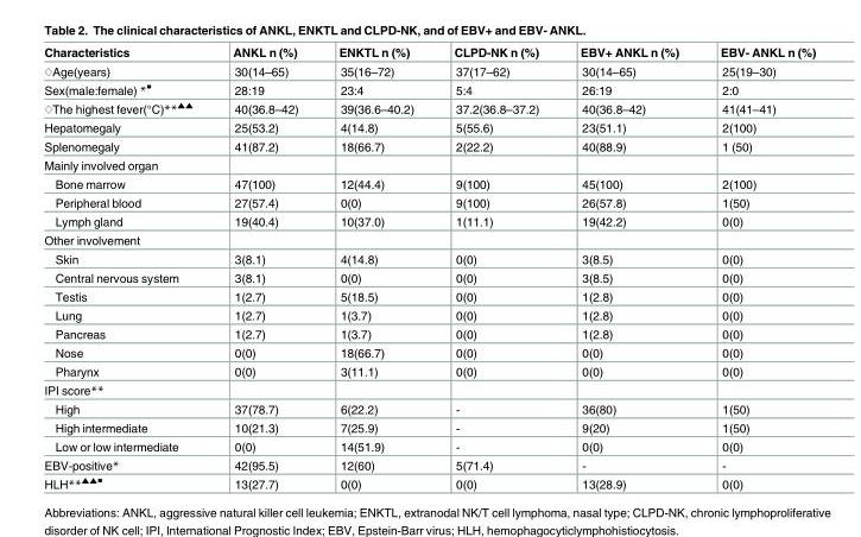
<table><thead><tr><td>Characteristics</td><td>ANKL n (%)</td><td>ENKTL n (%)</td><td>CLPD-NK n (%)</td><td>EBV+ ANKL n (%)</td><td>EBV- ANKL n (%)</td></tr></thead><tbody><tr><td>♢Age(years)</td><td>30(14–65)</td><td>35(16–72)</td><td>37(17–62)</td><td>30(14–65)</td><td>25(19–30)</td></tr><tr><td>Sex(male:female) *<sup>■</sup></td><td>28:19</td><td>23:4</td><td>5:4</td><td>26:19</td><td>2:0</td></tr><tr><td>♢The highest fever(°C)**<sup>▲▲</sup></td><td>40(36.8–42)</td><td>39(36.6–40.2)</td><td>37.2(36.8–37.2)</td><td>40(36.8–42)</td><td>41(41–41)</td></tr><tr><td>Hepatomegaly</td><td>25(53.2)</td><td>4(14.8)</td><td>5(55.6)</td><td>23(51.1)</td><td>2(100)</td></tr><tr><td>Splenomegaly</td><td>41(87.2)</td><td>18(66.7)</td><td>2(22.2)</td><td>40(88.9)</td><td>1 (50)</td></tr><tr><td colspan="6">Mainly involved organ</td></tr><tr><td>Bone marrow</td><td>47(100)</td><td>12(44.4)</td><td>9(100)</td><td>45(100)</td><td>2(100)</td></tr><tr><td>Peripheral blood</td><td>27(57.4)</td><td>0(0)</td><td>9(100)</td><td>26(57.8)</td><td>1(50)</td></tr><tr><td>Lymph gland</td><td>19(40.4)</td><td>10(37.0)</td><td>1(11.1)</td><td>19(42.2)</td><td>0(0)</td></tr><tr><td colspan="6">Other involvement</td></tr><tr><td>Skin</td><td>3(8.1)</td><td>4(14.8)</td><td>0(0)</td><td>3(8.5)</td><td>0(0)</td></tr><tr><td>Central nervous system</td><td>3(8.1)</td><td>0(0)</td><td>0(0)</td><td>3(8.5)</td><td>0(0)</td></tr><tr><td>Testis</td><td>1(2.7)</td><td>5(18.5)</td><td>0(0)</td><td>1(2.8)</td><td>0(0)</td></tr><tr><td>Lung</td><td>1(2.7)</td><td>1(3.7)</td><td>0(0)</td><td>1(2.8)</td><td>0(0)</td></tr><tr><td>Pancreas</td><td>1(2.7)</td><td>1(3.7)</td><td>0(0)</td><td>1(2.8)</td><td>0(0)</td></tr><tr><td>Nose</td><td>0(0)</td><td>18(66.7)</td><td>0(0)</td><td>0(0)</td><td>0(0)</td></tr><tr><td>Pharynx</td><td>0(0)</td><td>3(11.1)</td><td>0(0)</td><td>0(0)</td><td>0(0)</td></tr><tr><td colspan="6">IPI score**</td></tr><tr><td>High</td><td>37(78.7)</td><td>6(22.2)</td><td>-</td><td>36(80)</td><td>1(50)</td></tr><tr><td>High intermediate</td><td>10(21.3)</td><td>7(25.9)</td><td>-</td><td>9(20)</td><td>1(50)</td></tr><tr><td>Low or low intermediate</td><td>0(0)</td><td>14(51.9)</td><td>-</td><td>0(0)</td><td>0(0)</td></tr><tr><td>EBV-positive*</td><td>42(95.5)</td><td>12(60)</td><td>5(71.4)</td><td>-</td><td>-</td></tr><tr><td>HLH**<sup>▲▲■</sup></td><td>13(27.7)</td><td>0(0)</td><td>0(0)</td><td>13(28.9)</td><td>0(0)</td></tr></tbody></table>